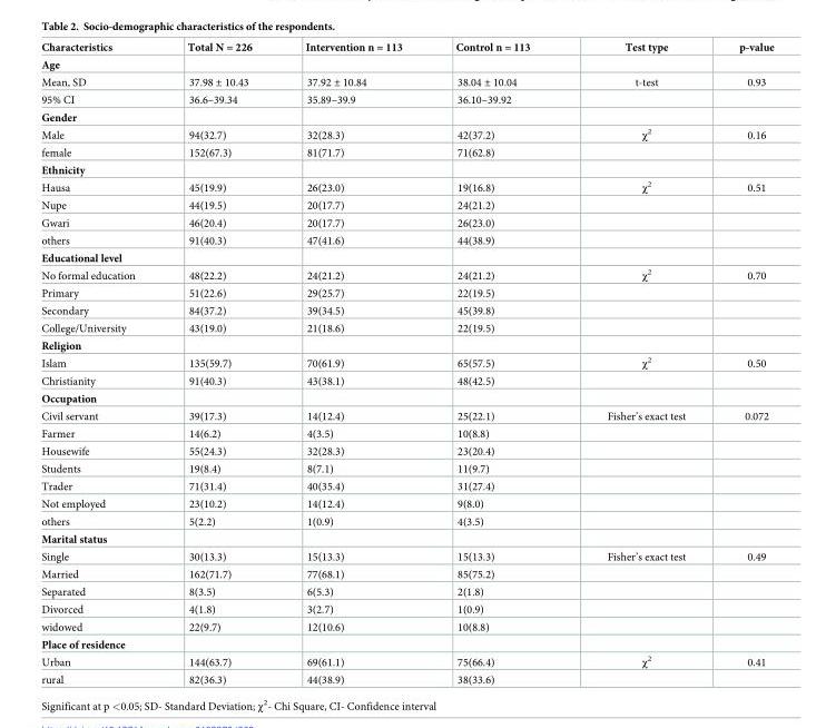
<table><thead><tr><td>Characteristics</td><td>Total N = 226</td><td>Intervention n = 113</td><td>Control n = 113</td><td>Test type</td><td>p-value</td></tr></thead><tbody><tr><td colspan="6">Age</td></tr><tr><td>Mean, SD</td><td>37.98 ± 10.43</td><td>37.92 ± 10.84</td><td>38.04 ± 10.04</td><td>t-test</td><td>0.93</td></tr><tr><td>95% CI</td><td>36.6–39.34</td><td>35.89–39.9</td><td>36.10–39.92</td><td></td><td></td></tr><tr><td colspan="6">Gender</td></tr><tr><td>Male</td><td>94(32.7)</td><td>32(28.3)</td><td>42(37.2)</td><td>χ<sup>2</sup></td><td>0.16</td></tr><tr><td>female</td><td>152(67.3)</td><td>81(71.7)</td><td>71(62.8)</td><td></td><td></td></tr><tr><td colspan="6">Ethnicity</td></tr><tr><td>Hausa</td><td>45(19.9)</td><td>26(23.0)</td><td>19(16.8)</td><td>χ<sup>2</sup></td><td>0.51</td></tr><tr><td>Nupe</td><td>44(19.5)</td><td>20(17.7)</td><td>24(21.2)</td><td></td><td></td></tr><tr><td>Gwari</td><td>46(20.4)</td><td>20(17.7)</td><td>26(23.0)</td><td></td><td></td></tr><tr><td>others</td><td>91(40.3)</td><td>47(41.6)</td><td>44(38.9)</td><td></td><td></td></tr><tr><td colspan="6">Educational level</td></tr><tr><td>No formal education</td><td>48(22.2)</td><td>24(21.2)</td><td>24(21.2)</td><td>χ<sup>2</sup></td><td>0.70</td></tr><tr><td>Primary</td><td>51(22.6)</td><td>29(25.7)</td><td>22(19.5)</td><td></td><td></td></tr><tr><td>Secondary</td><td>84(37.2)</td><td>39(34.5)</td><td>45(39.8)</td><td></td><td></td></tr><tr><td>College/University</td><td>43(19.0)</td><td>21(18.6)</td><td>22(19.5)</td><td></td><td></td></tr><tr><td colspan="6">Religion</td></tr><tr><td>Islam</td><td>135(59.7)</td><td>70(61.9)</td><td>65(57.5)</td><td>χ<sup>2</sup></td><td>0.50</td></tr><tr><td>Christianity</td><td>91(40.3)</td><td>43(38.1)</td><td>48(42.5)</td><td></td><td></td></tr><tr><td colspan="6">Occupation</td></tr><tr><td>Civil servant</td><td>39(17.3)</td><td>14(12.4)</td><td>25(22.1)</td><td>Fisher’s exact test</td><td>0.072</td></tr><tr><td>Farmer</td><td>14(6.2)</td><td>4(3.5)</td><td>10(8.8)</td><td></td><td></td></tr><tr><td>Housewife</td><td>55(24.3)</td><td>32(28.3)</td><td>23(20.4)</td><td></td><td></td></tr><tr><td>Students</td><td>19(8.4)</td><td>8(7.1)</td><td>11(9.7)</td><td></td><td></td></tr><tr><td>Trader</td><td>71(31.4)</td><td>40(35.4)</td><td>31(27.4)</td><td></td><td></td></tr><tr><td>Not employed</td><td>23(10.2)</td><td>14(12.4)</td><td>9(8.0)</td><td></td><td></td></tr><tr><td>others</td><td>5(2.2)</td><td>1(0.9)</td><td>4(3.5)</td><td></td><td></td></tr><tr><td colspan="6">Marital status</td></tr><tr><td>Single</td><td>30(13.3)</td><td>15(13.3)</td><td>15(13.3)</td><td>Fisher’s exact test</td><td>0.49</td></tr><tr><td>Married</td><td>162(71.7)</td><td>77(68.1)</td><td>85(75.2)</td><td></td><td></td></tr><tr><td>Separated</td><td>8(3.5)</td><td>6(5.3)</td><td>2(1.8)</td><td></td><td></td></tr><tr><td>Divorced</td><td>4(1.8)</td><td>3(2.7)</td><td>1(0.9)</td><td></td><td></td></tr><tr><td>widowed</td><td>22(9.7)</td><td>12(10.6)</td><td>10(8.8)</td><td></td><td></td></tr><tr><td colspan="6">Place of residence</td></tr><tr><td>Urban</td><td>144(63.7)</td><td>69(61.1)</td><td>75(66.4)</td><td>χ<sup>2</sup></td><td>0.41</td></tr><tr><td>rural</td><td>82(36.3)</td><td>44(38.9)</td><td>38(33.6)</td><td></td><td></td></tr></tbody></table>